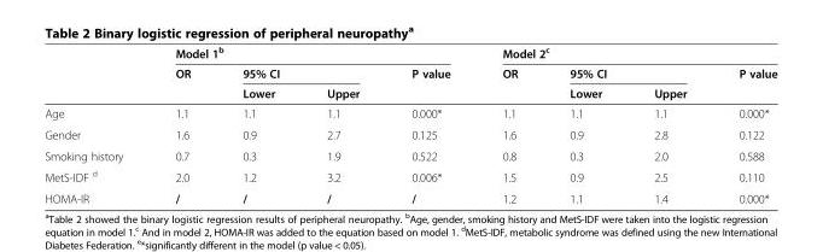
<table><thead><tr><td rowspan="3"></td><td colspan="4">Model 1<sup>b</sup></td><td colspan="4">Model 2<sup>c</sup></td></tr><tr><td rowspan="2">OR</td><td colspan="2">95% CI</td><td rowspan="2">P value</td><td rowspan="2">OR</td><td colspan="2">95% CI</td><td rowspan="2">P value</td></tr><tr><td>Lower</td><td>Upper</td><td>Lower</td><td>Upper</td></tr></thead><tbody><tr><td>Age</td><td>1.1</td><td>1.1</td><td>1.1</td><td>0.000*</td><td>1.1</td><td>1.1</td><td>1.1</td><td>0.000*</td></tr><tr><td>Gender</td><td>1.6</td><td>0.9</td><td>2.7</td><td>0.125</td><td>1.6</td><td>0.9</td><td>2.8</td><td>0.122</td></tr><tr><td>Smoking history</td><td>0.7</td><td>0.3</td><td>1.9</td><td>0.522</td><td>0.8</td><td>0.3</td><td>2.0</td><td>0.588</td></tr><tr><td>MetS-IDF <sup>d</sup></td><td>2.0</td><td>1.2</td><td>3.2</td><td>0.006*</td><td>1.5</td><td>0.9</td><td>2.5</td><td>0.110</td></tr><tr><td>HOMA-IR</td><td>/</td><td>/</td><td>/</td><td>/</td><td>1.2</td><td>1.1</td><td>1.4</td><td>0.000*</td></tr></tbody></table>